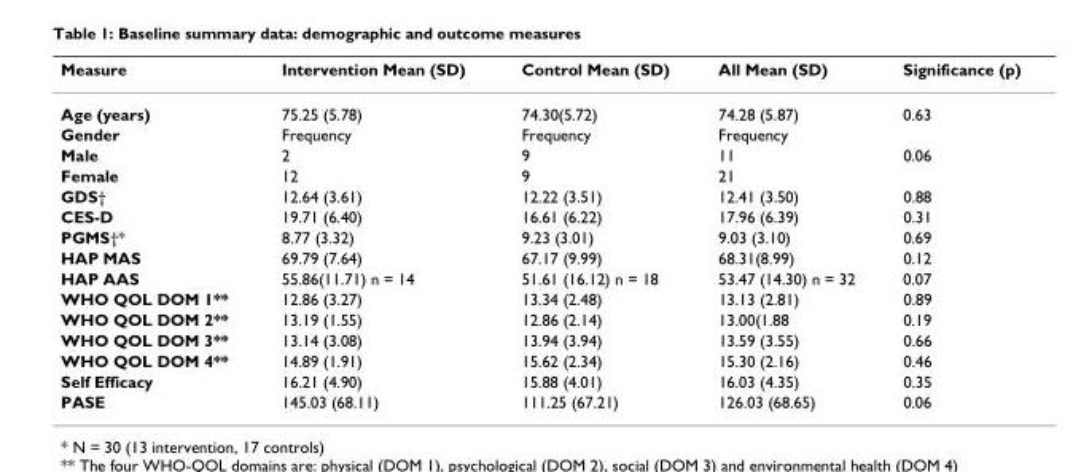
<table><thead><tr><td>Measure</td><td>Intervention Mean (SD)</td><td>Control Mean (SD)</td><td>All Mean (SD)</td><td>Significance (p)</td></tr></thead><tbody><tr><td>Age (years)</td><td>75.25 (5.78)</td><td>74.30(5.72)</td><td>74.28 (5.87)</td><td>0.63</td></tr><tr><td>Gender</td><td>Frequency</td><td>Frequency</td><td>Frequency</td><td></td></tr><tr><td>Male</td><td>2</td><td>9</td><td>11</td><td>0.06</td></tr><tr><td>Female</td><td>12</td><td>9</td><td>21</td><td></td></tr><tr><td>GDS†</td><td>12.64 (3.61)</td><td>12.22 (3.51)</td><td>12.41 (3.50)</td><td>0.88</td></tr><tr><td>CES-D</td><td>19.71 (6.40)</td><td>16.61 (6.22)</td><td>17.96 (6.39)</td><td>0.31</td></tr><tr><td>PGMS†*</td><td>8.77 (3.32)</td><td>9.23 (3.01)</td><td>9.03 (3.10)</td><td>0.69</td></tr><tr><td>HAP MAS</td><td>69.79 (7.64)</td><td>67.17 (9.99)</td><td>68.31(8.99)</td><td>0.12</td></tr><tr><td>HAP AAS</td><td>55.86(11.71) n = 14</td><td>51.61 (16.12) n = 18</td><td>53.47 (14.30) n = 32</td><td>0.07</td></tr><tr><td>WHO QOL DOM 1**</td><td>12.86 (3.27)</td><td>13.34 (2.48)</td><td>13.13 (2.81)</td><td>0.89</td></tr><tr><td>WHO QOL DOM 2**</td><td>13.19 (1.55)</td><td>12.86 (2.14)</td><td>13.00(1.88</td><td>0.19</td></tr><tr><td>WHO QOL DOM 3**</td><td>13.14 (3.08)</td><td>13.94 (3.94)</td><td>13.59 (3.55)</td><td>0.66</td></tr><tr><td>WHO QOL DOM 4**</td><td>14.89 (1.91)</td><td>15.62 (2.34)</td><td>15.30 (2.16)</td><td>0.46</td></tr><tr><td>Self Efficacy</td><td>16.21 (4.90)</td><td>15.88 (4.01)</td><td>16.03 (4.35)</td><td>0.35</td></tr><tr><td>PASE</td><td>145.03 (68.11)</td><td>111.25 (67.21)</td><td>126.03 (68.65)</td><td>0.06</td></tr></tbody></table>